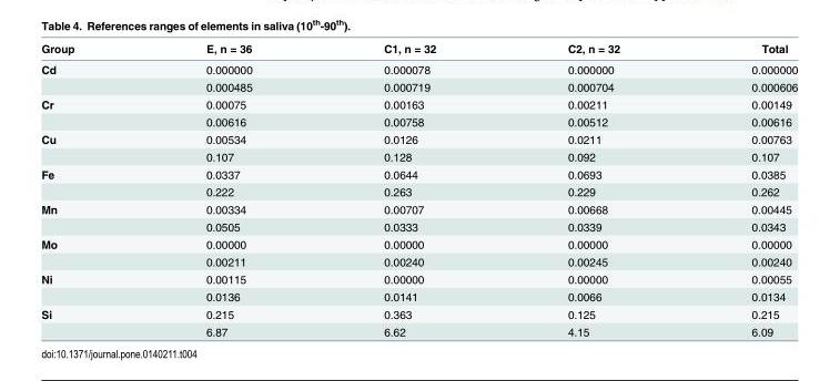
<table><thead><tr><td>Group</td><td>E, n = 36</td><td>C1, n = 32</td><td>C2, n = 32</td><td>Total</td></tr></thead><tbody><tr><td rowspan="2">Cd</td><td>0.000000</td><td>0.000078</td><td>0.000000</td><td>0.000000</td></tr><tr><td>0.000485</td><td>0.000719</td><td>0.000704</td><td>0.000606</td></tr><tr><td rowspan="2">Cr</td><td>0.00075</td><td>0.00163</td><td>0.00211</td><td>0.00149</td></tr><tr><td>0.00616</td><td>0.00758</td><td>0.00512</td><td>0.00616</td></tr><tr><td rowspan="2">Cu</td><td>0.00534</td><td>0.0126</td><td>0.0211</td><td>0.00763</td></tr><tr><td>0.107</td><td>0.128</td><td>0.092</td><td>0.107</td></tr><tr><td rowspan="2">Fe</td><td>0.0337</td><td>0.0644</td><td>0.0693</td><td>0.0385</td></tr><tr><td>0.222</td><td>0.263</td><td>0.229</td><td>0.262</td></tr><tr><td rowspan="2">Mn</td><td>0.00334</td><td>0.00707</td><td>0.00668</td><td>0.00445</td></tr><tr><td>0.0505</td><td>0.0333</td><td>0.0339</td><td>0.0343</td></tr><tr><td rowspan="2">Mo</td><td>0.00000</td><td>0.00000</td><td>0.00000</td><td>0.00000</td></tr><tr><td>0.00211</td><td>0.00240</td><td>0.00245</td><td>0.00240</td></tr><tr><td rowspan="2">Ni</td><td>0.00115</td><td>0.00000</td><td>0.00000</td><td>0.00055</td></tr><tr><td>0.0136</td><td>0.0141</td><td>0.0066</td><td>0.0134</td></tr><tr><td rowspan="2">Si</td><td>0.215</td><td>0.363</td><td>0.125</td><td>0.215</td></tr><tr><td>6.87</td><td>6.62</td><td>4.15</td><td>6.09</td></tr></tbody></table>